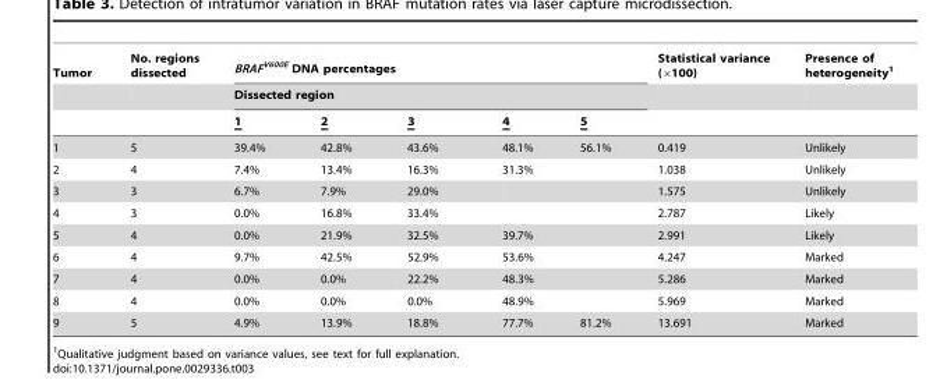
<table><thead><tr><td rowspan="3">Tumor</td><td rowspan="3">No. regions dissected</td><td rowspan="2" colspan="5">BRAF<sup>V600E</sup> DNA percentages Dissected region</td><td rowspan="3">Statistical variance (×100)</td><td rowspan="3">Presence of heterogeneity<sup>1</sup></td></tr><tr></tr><tr><td>1</td><td>2</td><td>3</td><td>4</td><td>5</td></tr></thead><tbody><tr><td>1</td><td>5</td><td>39.4%</td><td>42.8%</td><td>43.6%</td><td>48.1%</td><td>56.1%</td><td>0.419</td><td>Unlikely</td></tr><tr><td>2</td><td>4</td><td>7.4%</td><td>13.4%</td><td>16.3%</td><td>31.3%</td><td></td><td>1.038</td><td>Unlikely</td></tr><tr><td>3</td><td>3</td><td>6.7%</td><td>7.9%</td><td>29.0%</td><td></td><td></td><td>1.575</td><td>Unlikely</td></tr><tr><td>4</td><td>3</td><td>0.0%</td><td>16.8%</td><td>33.4%</td><td></td><td></td><td>2.787</td><td>Likely</td></tr><tr><td>5</td><td>4</td><td>0.0%</td><td>21.9%</td><td>32.5%</td><td>39.7%</td><td></td><td>2.991</td><td>Likely</td></tr><tr><td>6</td><td>4</td><td>9.7%</td><td>42.5%</td><td>52.9%</td><td>53.6%</td><td></td><td>4.247</td><td>Marked</td></tr><tr><td>7</td><td>4</td><td>0.0%</td><td>0.0%</td><td>22.2%</td><td>48.3%</td><td></td><td>5.286</td><td>Marked</td></tr><tr><td>8</td><td>4</td><td>0.0%</td><td>0.0%</td><td>0.0%</td><td>48.9%</td><td></td><td>5.969</td><td>Marked</td></tr><tr><td>9</td><td>5</td><td>4.9%</td><td>13.9%</td><td>18.8%</td><td>77.7%</td><td>81.2%</td><td>13.691</td><td>Marked</td></tr></tbody></table>